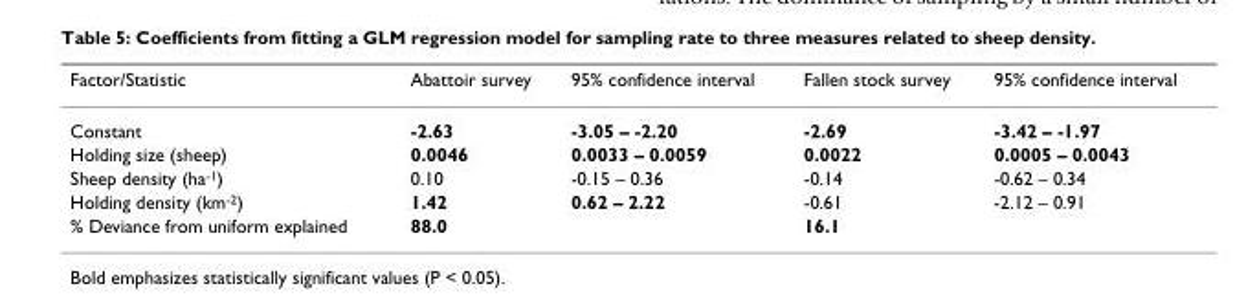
<table><thead><tr><td>Factor/Statistic</td><td>Abattoir survey</td><td>95% confidence interval</td><td>Fallen stock survey</td><td>95% confidence interval</td></tr></thead><tbody><tr><td>Constant</td><td>-2.63</td><td>-3.05 – -2.20</td><td>-2.69</td><td>-3.42 – -1.97</td></tr><tr><td>Holding size (sheep)</td><td>0.0046</td><td>0.0033 – 0.0059</td><td>0.0022</td><td>0.0005 – 0.0043</td></tr><tr><td>Sheep density (ha<sup>-1</sup>)</td><td>0.10</td><td>-0.15 – 0.36</td><td>-0.14</td><td>-0.62 – 0.34</td></tr><tr><td>Holding density (km<sup>-2</sup>)</td><td>1.42</td><td>0.62 – 2.22</td><td>-0.61</td><td>-2.12 – 0.91</td></tr><tr><td>% Deviance from uniform explained</td><td>88.0</td><td></td><td>16.1</td><td></td></tr></tbody></table>